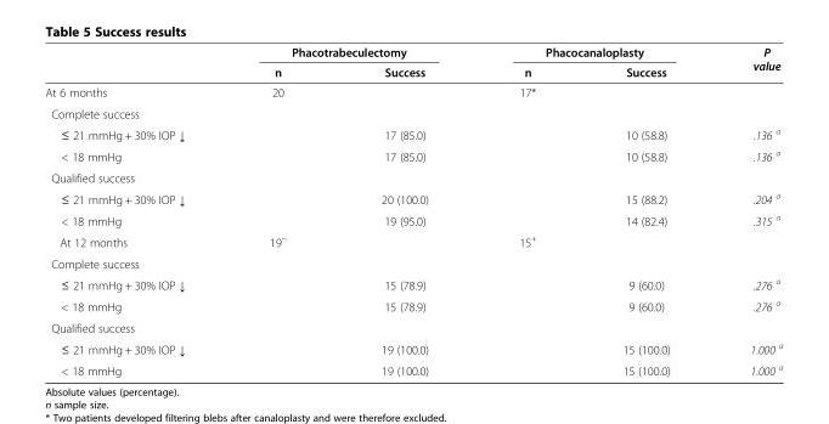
<table><thead><tr><td rowspan="2"></td><td colspan="2">Phacotrabeculectomy</td><td colspan="2">Phacocanaloplasty</td><td rowspan="2">P value</td></tr><tr><td>n</td><td>Success</td><td>n</td><td>Success</td></tr></thead><tbody><tr><td>At 6 months</td><td>20</td><td></td><td>17*</td><td></td><td></td></tr><tr><td colspan="6">Complete success</td></tr><tr><td>≤ 21 mmHg + 30% IOP ↓</td><td></td><td>17 (85.0)</td><td></td><td>10 (58.8)</td><td>.136 <sup>a</sup></td></tr><tr><td>&lt; 18 mmHg</td><td></td><td>17 (85.0)</td><td></td><td>10 (58.8)</td><td>.136 <sup>a</sup></td></tr><tr><td colspan="6">Qualified success</td></tr><tr><td>≤ 21 mmHg + 30% IOP ↓</td><td></td><td>20 (100.0)</td><td></td><td>15 (88.2)</td><td>.204 <sup>a</sup></td></tr><tr><td>&lt; 18 mmHg</td><td></td><td>19 (95.0)</td><td></td><td>14 (82.4)</td><td>.315 <sup>a</sup></td></tr><tr><td>At 12 months</td><td>19<sup>~</sup></td><td></td><td>15<sup>+</sup></td><td></td><td></td></tr><tr><td colspan="6">Complete success</td></tr><tr><td>≤ 21 mmHg + 30% IOP ↓</td><td></td><td>15 (78.9)</td><td></td><td>9 (60.0)</td><td>.276 <sup>a</sup></td></tr><tr><td>&lt; 18 mmHg</td><td></td><td>15 (78.9)</td><td></td><td>9 (60.0)</td><td>.276 <sup>a</sup></td></tr><tr><td colspan="6">Qualified success</td></tr><tr><td>≤ 21 mmHg + 30% IOP ↓</td><td></td><td>19 (100.0)</td><td></td><td>15 (100.0)</td><td>1.000 <sup>a</sup></td></tr><tr><td>&lt; 18 mmHg</td><td></td><td>19 (100.0)</td><td></td><td>15 (100.0)</td><td>1.000 <sup>a</sup></td></tr></tbody></table>